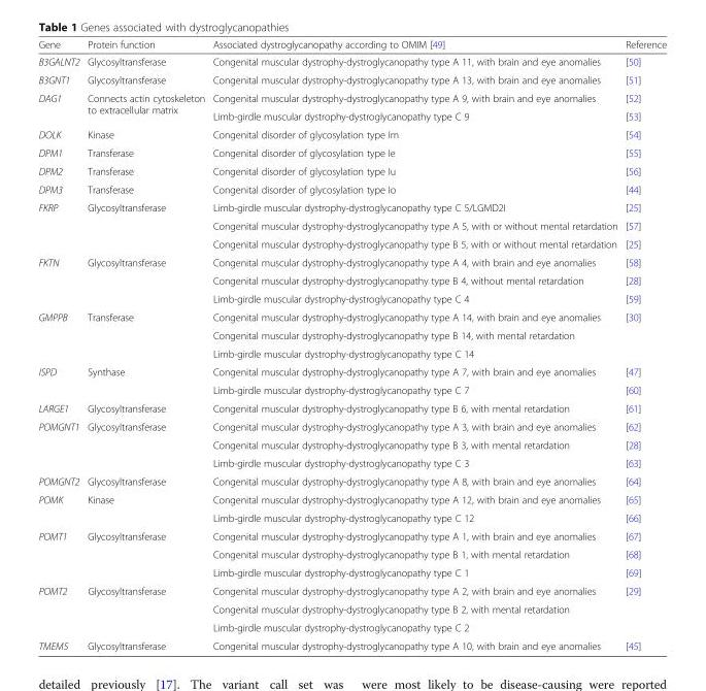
<table><thead><tr><td>Gene</td><td>Protein function</td><td>Associated dystroglycanopathy according to OMIM [49]</td><td>Reference</td></tr></thead><tbody><tr><td>B3GALNT2</td><td>Glycosyltransferase</td><td>Congenital muscular dystrophy-dystroglycanopathy type A 11, with brain and eye anomalies</td><td>[50]</td></tr><tr><td>B3GNT1</td><td>Glycosyltransferase</td><td>Congenital muscular dystrophy-dystroglycanopathy type A 13, with brain and eye anomalies</td><td>[51]</td></tr><tr><td rowspan="2">DAG1</td><td rowspan="2">Connects actin cytoskeleton to extracellular matrix</td><td>Congenital muscular dystrophy-dystroglycanopathy type A 9, with brain and eye anomalies</td><td>[52]</td></tr><tr><td>Limb-girdle muscular dystrophy-dystroglycanopathy type C 9</td><td>[53]</td></tr><tr><td>DOLK</td><td>Kinase</td><td>Congenital disorder of glycosylation type Im</td><td>[54]</td></tr><tr><td>DPM1</td><td>Transferase</td><td>Congenital disorder of glycosylation type Ie</td><td>[55]</td></tr><tr><td>DPM2</td><td>Transferase</td><td>Congenital disorder of glycosylation type Iu</td><td>[56]</td></tr><tr><td>DPM3</td><td>Transferase</td><td>Congenital disorder of glycosylation type Io</td><td>[44]</td></tr><tr><td rowspan="3">FKRP</td><td rowspan="3">Glycosyltransferase</td><td>Limb-girdle muscular dystrophy-dystroglycanopathy type C 5/LGMD2I</td><td>[25]</td></tr><tr><td>Congenital muscular dystrophy-dystroglycanopathy type A 5, with or without mental retardation</td><td>[57]</td></tr><tr><td>Congenital muscular dystrophy-dystroglycanopathy type B 5, with or without mental retardation</td><td>[25]</td></tr><tr><td rowspan="3">FKTN</td><td rowspan="3">Glycosyltransferase</td><td>Congenital muscular dystrophy-dystroglycanopathy type A 4, with brain and eye anomalies</td><td>[58]</td></tr><tr><td>Congenital muscular dystrophy-dystroglycanopathy type B 4, without mental retardation</td><td>[28]</td></tr><tr><td>Limb-girdle muscular dystrophy-dystroglycanopathy type C 4</td><td>[59]</td></tr><tr><td rowspan="3">GMPPB</td><td rowspan="3">Transferase</td><td>Congenital muscular dystrophy-dystroglycanopathy type A 14, with brain and eye anomalies</td><td rowspan="3">[30]</td></tr><tr><td>Congenital muscular dystrophy-dystroglycanopathy type B 14, with mental retardation</td></tr><tr><td>Limb-girdle muscular dystrophy-dystroglycanopathy type C 14</td></tr><tr><td rowspan="2">ISPD</td><td rowspan="2">Synthase</td><td>Congenital muscular dystrophy-dystroglycanopathy type A 7, with brain and eye anomalies</td><td>[47]</td></tr><tr><td>Limb-girdle muscular dystrophy-dystroglycanopathy type C 7</td><td>[60]</td></tr><tr><td>LARGE1</td><td>Glycosyltransferase</td><td>Congenital muscular dystrophy-dystroglycanopathy type B 6, with mental retardation</td><td>[61]</td></tr><tr><td rowspan="3">POMGNT1</td><td rowspan="3">Glycosyltransferase</td><td>Congenital muscular dystrophy-dystroglycanopathy type A 3, with brain and eye anomalies</td><td>[62]</td></tr><tr><td>Congenital muscular dystrophy-dystroglycanopathy type B 3, with mental retardation</td><td>[28]</td></tr><tr><td>Limb-girdle muscular dystrophy-dystroglycanopathy type C 3</td><td>[63]</td></tr><tr><td>POMGNT2</td><td>Glycosyltransferase</td><td>Congenital muscular dystrophy-dystroglycanopathy type A 8, with brain and eye anomalies</td><td>[64]</td></tr><tr><td rowspan="2">POMK</td><td rowspan="2">Kinase</td><td>Congenital muscular dystrophy-dystroglycanopathy type A 12, with brain and eye anomalies</td><td>[65]</td></tr><tr><td>Limb-girdle muscular dystrophy-dystroglycanopathy type C 12</td><td>[66]</td></tr><tr><td rowspan="3">POMT1</td><td rowspan="3">Glycosyltransferase</td><td>Congenital muscular dystrophy-dystroglycanopathy type A 1, with brain and eye anomalies</td><td>[67]</td></tr><tr><td>Congenital muscular dystrophy-dystroglycanopathy type B 1, with mental retardation</td><td>[68]</td></tr><tr><td>Limb-girdle muscular dystrophy-dystroglycanopathy type C 1</td><td>[69]</td></tr><tr><td rowspan="3">POMT2</td><td rowspan="3">Glycosyltransferase</td><td>Congenital muscular dystrophy-dystroglycanopathy type A 2, with brain and eye anomalies</td><td rowspan="3">[29]</td></tr><tr><td>Congenital muscular dystrophy-dystroglycanopathy type B 2, with mental retardation</td></tr><tr><td>Limb-girdle muscular dystrophy-dystroglycanopathy type C 2</td></tr><tr><td>TMEM5</td><td>Glycosyltransferase</td><td>Congenital muscular dystrophy-dystroglycanopathy type A 10, with brain and eye anomalies</td><td>[45]</td></tr></tbody></table>